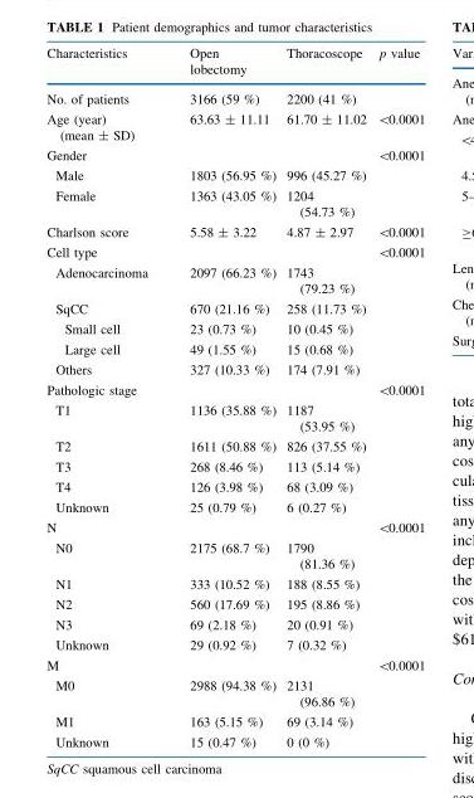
<table><thead><tr><td>Characteristics</td><td>Open lobectomy</td><td>Thoracoscope</td><td>p value</td></tr></thead><tbody><tr><td>No. of patients</td><td>3166 (59 %)</td><td>2200 (41 %)</td><td></td></tr><tr><td>Age (year) (mean ± SD)</td><td>63.63 ± 11.11</td><td>61.70 ± 11.02</td><td>&lt;0.0001</td></tr><tr><td>Gender</td><td></td><td></td><td>&lt;0.0001</td></tr><tr><td>Male</td><td>1803 (56.95 %)</td><td>996 (45.27 %)</td><td></td></tr><tr><td>Female</td><td>1363 (43.05 %)</td><td>1204 (54.73 %)</td><td></td></tr><tr><td>Charlson score</td><td>5.58 ± 3.22</td><td>4.87 ± 2.97</td><td>&lt;0.0001</td></tr><tr><td>Cell type</td><td></td><td></td><td>&lt;0.0001</td></tr><tr><td>Adenocarcinoma</td><td>2097 (66.23 %)</td><td>1743 (79.23 %)</td><td></td></tr><tr><td>SqCC</td><td>670 (21.16 %)</td><td>258 (11.73 %)</td><td></td></tr><tr><td>Small cell</td><td>23 (0.73 %)</td><td>10 (0.45 %)</td><td></td></tr><tr><td>Large cell</td><td>49 (1.55 %)</td><td>15 (0.68 %)</td><td></td></tr><tr><td>Others</td><td>327 (10.33 %)</td><td>174 (7.91 %)</td><td></td></tr><tr><td>Pathologic stage</td><td></td><td></td><td>&lt;0.0001</td></tr><tr><td>T1</td><td>1136 (35.88 %)</td><td>1187 (53.95 %)</td><td></td></tr><tr><td>T2</td><td>1611 (50.88 %)</td><td>826 (37.55 %)</td><td></td></tr><tr><td>T3</td><td>268 (8.46 %)</td><td>113 (5.14 %)</td><td></td></tr><tr><td>T4</td><td>126 (3.98 %)</td><td>68 (3.09 %)</td><td></td></tr><tr><td>Unknown</td><td>25 (0.79 %)</td><td>6 (0.27 %)</td><td></td></tr><tr><td>N</td><td></td><td></td><td>&lt;0.0001</td></tr><tr><td>N0</td><td>2175 (68.7 %)</td><td>1790 (81.36 %)</td><td></td></tr><tr><td>N1</td><td>333 (10.52 %)</td><td>188 (8.55 %)</td><td></td></tr><tr><td>N2</td><td>560 (17.69 %)</td><td>195 (8.86 %)</td><td></td></tr><tr><td>N3</td><td>69 (2.18 %)</td><td>20 (0.91 %)</td><td></td></tr><tr><td>Unknown</td><td>29 (0.92 %)</td><td>7 (0.32 %)</td><td></td></tr><tr><td>M</td><td></td><td></td><td>&lt;0.0001</td></tr><tr><td>M0</td><td>2988 (94.38 %)</td><td>2131 (96.86 %)</td><td></td></tr><tr><td>M1</td><td>163 (5.15 %)</td><td>69 (3.14 %)</td><td></td></tr><tr><td>Unknown</td><td>15 (0.47 %)</td><td>0 (0 %)</td><td></td></tr></tbody></table>